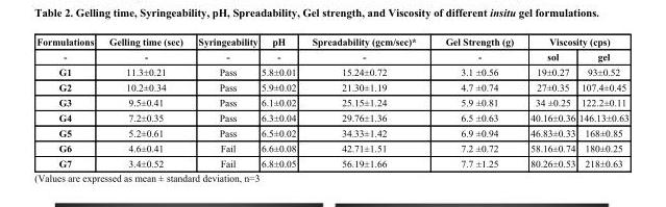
<table><thead><tr><td rowspan="2">Formulations -</td><td rowspan="2">Gelling time (sec) -</td><td rowspan="2">Syringeability -</td><td rowspan="2">pH -</td><td rowspan="2">Spreadability (gcm/sec)* -</td><td rowspan="2">Gel Strength (g) -</td><td colspan="2">Viscosity (cps)</td></tr><tr><td>sol</td><td>gel</td></tr></thead><tbody><tr><td>G1</td><td>11.3±0.21</td><td>Pass</td><td>5.8±0.01</td><td>15.24±0.72</td><td>3.1 ±0.56</td><td>19±0.27</td><td>93±0.52</td></tr><tr><td>G2</td><td>10.2±0.34</td><td>Pass</td><td>5.9±0.02</td><td>21.30±1.19</td><td>4.7 ±0.74</td><td>27±0.35</td><td>107.4±0.45</td></tr><tr><td>G3</td><td>9.5±0.41</td><td>Pass</td><td>6.1±0.02</td><td>25.15±1.24</td><td>5.9 ±0.81</td><td>34 ±0.25</td><td>122.2±0.11</td></tr><tr><td>G4</td><td>7.2±0.35</td><td>Pass</td><td>6.3±0.04</td><td>29.76±1.36</td><td>6.5 ±0.63</td><td>40.16±0.36</td><td>146.13±0.63</td></tr><tr><td>G5</td><td>5.2±0.61</td><td>Pass</td><td>6.5±0.02</td><td>34.33±1.42</td><td>6.9 ±0.94</td><td>46.83±0.33</td><td>168±0.85</td></tr><tr><td>G6</td><td>4.6±0.41</td><td>Fail</td><td>6.6±0.08</td><td>42.71±1.51</td><td>7.2 ±0.72</td><td>58.16±0.74</td><td>180±0.25</td></tr><tr><td>G7</td><td>3.4±0.52</td><td>Fail</td><td>6.8±0.05</td><td>56.19±1.66</td><td>7.7 ±1.25</td><td>80.26±0.53</td><td>218±0.63</td></tr></tbody></table>